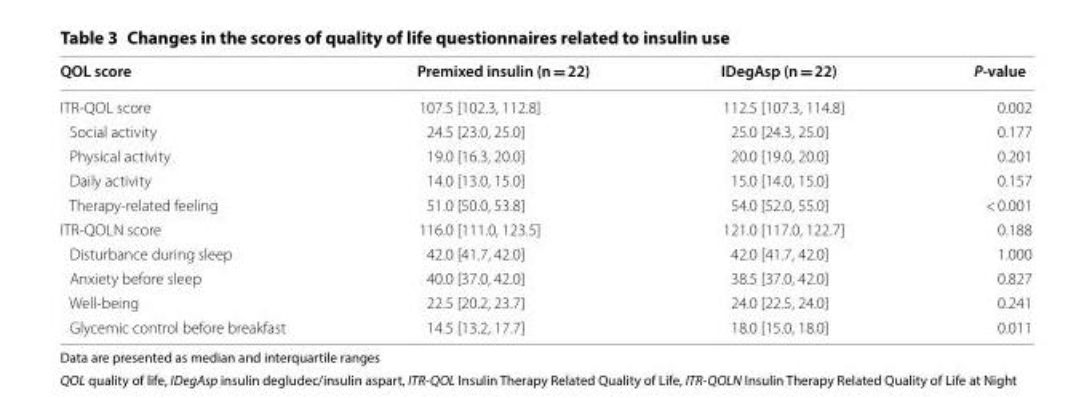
<table><thead><tr><td>QOL score</td><td>Premixed insulin (n = 22)</td><td>IDegAsp (n = 22)</td><td>P-value</td></tr></thead><tbody><tr><td>ITR-QOL score</td><td>107.5 [102.3, 112.8]</td><td>112.5 [107.3, 114.8]</td><td>0.002</td></tr><tr><td>Social activity</td><td>24.5 [23.0, 25.0]</td><td>25.0 [24.3, 25.0]</td><td>0.177</td></tr><tr><td>Physical activity</td><td>19.0 [16.3, 20.0]</td><td>20.0 [19.0, 20.0]</td><td>0.201</td></tr><tr><td>Daily activity</td><td>14.0 [13.0, 15.0]</td><td>15.0 [14.0, 15.0]</td><td>0.157</td></tr><tr><td>Therapy-related feeling</td><td>51.0 [50.0, 53.8]</td><td>54.0 [52.0, 55.0]</td><td>&lt; 0.001</td></tr><tr><td>ITR-QOLN score</td><td>116.0 [111.0, 123.5]</td><td>121.0 [117.0, 122.7]</td><td>0.188</td></tr><tr><td>Disturbance during sleep</td><td>42.0 [41.7, 42.0]</td><td>42.0 [41.7, 42.0]</td><td>1.000</td></tr><tr><td>Anxiety before sleep</td><td>40.0 [37.0, 42.0]</td><td>38.5 [37.0, 42.0]</td><td>0.827</td></tr><tr><td>Well-being</td><td>22.5 [20.2, 23.7]</td><td>24.0 [22.5, 24.0]</td><td>0.241</td></tr><tr><td>Glycemic control before breakfast</td><td>14.5 [13.2, 17.7]</td><td>18.0 [15.0, 18.0]</td><td>0.011</td></tr></tbody></table>